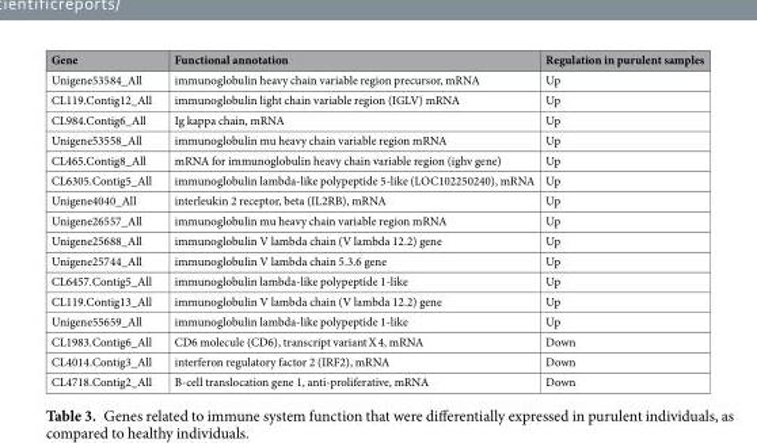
<table><thead><tr><td>Gene</td><td>Functional annotation</td><td>Regulation in purulent samples</td></tr></thead><tbody><tr><td>Unigene53584_All</td><td>immunoglobulin heavy chain variable region precursor, mRNA</td><td>Up</td></tr><tr><td>CL119.Contig12_All</td><td>immunoglobulin light chain variable region (IGLV) mRNA</td><td>Up</td></tr><tr><td>CL984.Contig6_All</td><td>Ig kappa chain, mRNA</td><td>Up</td></tr><tr><td>Unigene53558_All</td><td>immunoglobulin mu heavy chain variable region mRNA</td><td>Up</td></tr><tr><td>CL465.Contig8_All</td><td>mRNA for immunoglobulin heavy chain variable region (ighv gene)</td><td>Up</td></tr><tr><td>CL6305.Contig5_All</td><td>immunoglobulin lambda-like polypeptide 5-like (LOC102250240), mRNA</td><td>Up</td></tr><tr><td>Unigene4040_All</td><td>interleukin 2 receptor, beta (IL2RB), mRNA</td><td>Up</td></tr><tr><td>Unigene26557_All</td><td>immunoglobulin mu heavy chain variable region mRNA</td><td>Up</td></tr><tr><td>Unigene25688_All</td><td>immunoglobulin V lambda chain (V lambda 12.2) gene</td><td>Up</td></tr><tr><td>Unigene25744_All</td><td>immunoglobulin V lambda chain 5.3.6 gene</td><td>Up</td></tr><tr><td>CL6457.Contig5_All</td><td>immunoglobulin lambda-like polypeptide 1-like</td><td>Up</td></tr><tr><td>CL119.Contig13_All</td><td>immunoglobulin V lambda chain (V lambda 12.2) gene</td><td>Up</td></tr><tr><td>Unigene55659_All</td><td>immunoglobulin lambda-like polypeptide 1-like</td><td>Up</td></tr><tr><td>CL1983.Contig6_All</td><td>CD6 molecule (CD6), transcript variant X 4, mRNA</td><td>Down</td></tr><tr><td>CL4014.Contig3_All</td><td>interferon regulatory factor 2 (IRF2), mRNA</td><td>Down</td></tr><tr><td>CL4718.Contig2_All</td><td>B-cell translocation gene 1, anti-proliferative, mRNA</td><td>Down</td></tr></tbody></table>